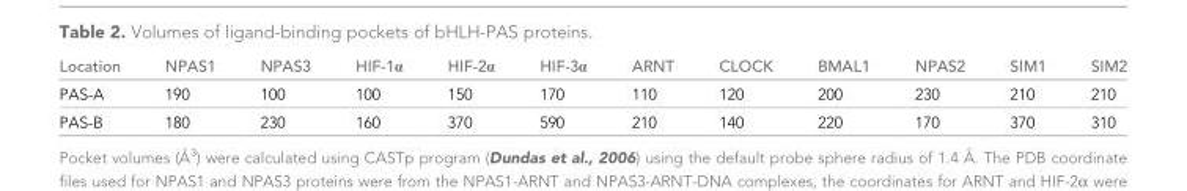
<table><thead><tr><td>Location</td><td>NPAS1</td><td>NPAS3</td><td>HIF-1α</td><td>HIF-2α</td><td>HIF-3α</td><td>ARNT</td><td>CLOCK</td><td>BMAL1</td><td>NPAS2</td><td>SIM1</td><td>SIM2</td></tr></thead><tbody><tr><td>PAS-A</td><td>190</td><td>100</td><td>100</td><td>150</td><td>170</td><td>110</td><td>120</td><td>200</td><td>230</td><td>210</td><td>210</td></tr><tr><td>PAS-B</td><td>180</td><td>230</td><td>160</td><td>370</td><td>590</td><td>210</td><td>140</td><td>220</td><td>170</td><td>370</td><td>310</td></tr></tbody></table>